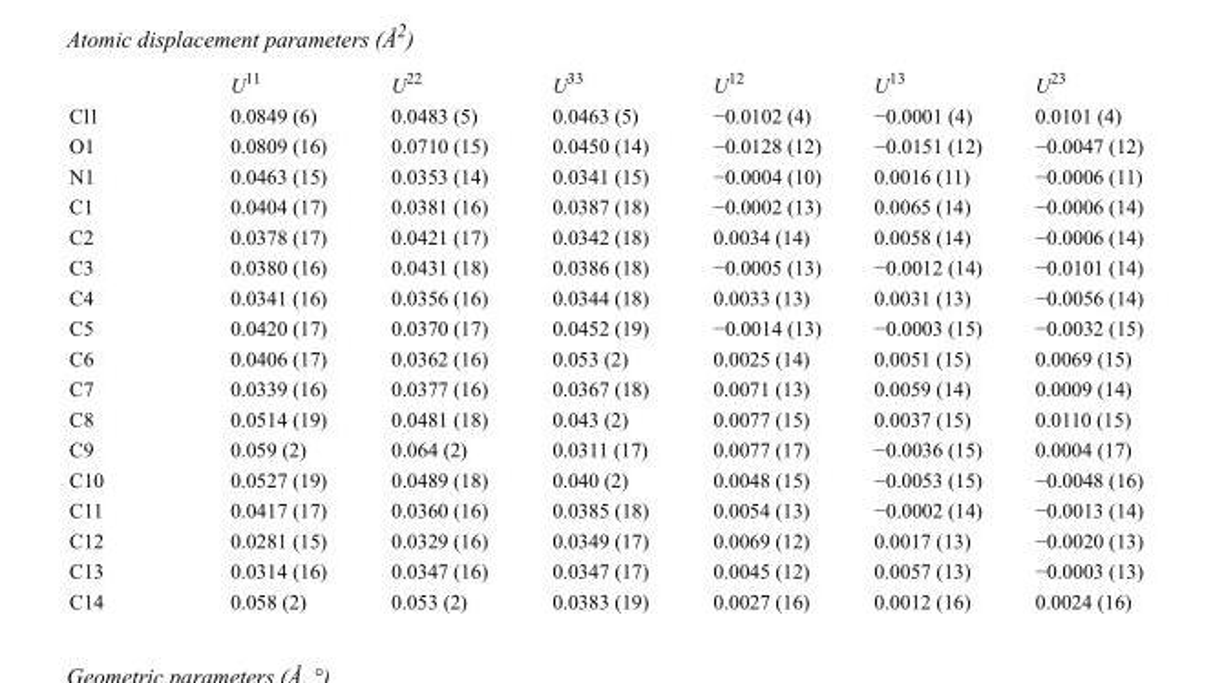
<table><thead><tr><td></td><td>U<sup>11</sup></td><td>U<sup>22</sup></td><td>U<sup>33</sup></td><td>U<sup>12</sup></td><td>U<sup>13</sup></td><td>U<sup>23</sup></td></tr></thead><tbody><tr><td>Cl1</td><td>0.0849 (6)</td><td>0.0483 (5)</td><td>0.0463 (5)</td><td>−0.0102 (4)</td><td>−0.0001 (4)</td><td>0.0101 (4)</td></tr><tr><td>O1</td><td>0.0809 (16)</td><td>0.0710 (15)</td><td>0.0450 (14)</td><td>−0.0128 (12)</td><td>−0.0151 (12)</td><td>−0.0047 (12)</td></tr><tr><td>N1</td><td>0.0463 (15)</td><td>0.0353 (14)</td><td>0.0341 (15)</td><td>−0.0004 (10)</td><td>0.0016 (11)</td><td>−0.0006 (11)</td></tr><tr><td>C1</td><td>0.0404 (17)</td><td>0.0381 (16)</td><td>0.0387 (18)</td><td>−0.0002 (13)</td><td>0.0065 (14)</td><td>−0.0006 (14)</td></tr><tr><td>C2</td><td>0.0378 (17)</td><td>0.0421 (17)</td><td>0.0342 (18)</td><td>0.0034 (14)</td><td>0.0058 (14)</td><td>−0.0006 (14)</td></tr><tr><td>C3</td><td>0.0380 (16)</td><td>0.0431 (18)</td><td>0.0386 (18)</td><td>−0.0005 (13)</td><td>−0.0012 (14)</td><td>−0.0101 (14)</td></tr><tr><td>C4</td><td>0.0341 (16)</td><td>0.0356 (16)</td><td>0.0344 (18)</td><td>0.0033 (13)</td><td>0.0031 (13)</td><td>−0.0056 (14)</td></tr><tr><td>C5</td><td>0.0420 (17)</td><td>0.0370 (17)</td><td>0.0452 (19)</td><td>−0.0014 (13)</td><td>−0.0003 (15)</td><td>−0.0032 (15)</td></tr><tr><td>C6</td><td>0.0406 (17)</td><td>0.0362 (16)</td><td>0.053 (2)</td><td>0.0025 (14)</td><td>0.0051 (15)</td><td>0.0069 (15)</td></tr><tr><td>C7</td><td>0.0339 (16)</td><td>0.0377 (16)</td><td>0.0367 (18)</td><td>0.0071 (13)</td><td>0.0059 (14)</td><td>0.0009 (14)</td></tr><tr><td>C8</td><td>0.0514 (19)</td><td>0.0481 (18)</td><td>0.043 (2)</td><td>0.0077 (15)</td><td>0.0037 (15)</td><td>0.0110 (15)</td></tr><tr><td>C9</td><td>0.059 (2)</td><td>0.064 (2)</td><td>0.0311 (17)</td><td>0.0077 (17)</td><td>−0.0036 (15)</td><td>0.0004 (17)</td></tr><tr><td>C10</td><td>0.0527 (19)</td><td>0.0489 (18)</td><td>0.040 (2)</td><td>0.0048 (15)</td><td>−0.0053 (15)</td><td>−0.0048 (16)</td></tr><tr><td>C11</td><td>0.0417 (17)</td><td>0.0360 (16)</td><td>0.0385 (18)</td><td>0.0054 (13)</td><td>−0.0002 (14)</td><td>−0.0013 (14)</td></tr><tr><td>C12</td><td>0.0281 (15)</td><td>0.0329 (16)</td><td>0.0349 (17)</td><td>0.0069 (12)</td><td>0.0017 (13)</td><td>−0.0020 (13)</td></tr><tr><td>C13</td><td>0.0314 (16)</td><td>0.0347 (16)</td><td>0.0347 (17)</td><td>0.0045 (12)</td><td>0.0057 (13)</td><td>−0.0003 (13)</td></tr><tr><td>C14</td><td>0.058 (2)</td><td>0.053 (2)</td><td>0.0383 (19)</td><td>0.0027 (16)</td><td>0.0012 (16)</td><td>0.0024 (16)</td></tr></tbody></table>